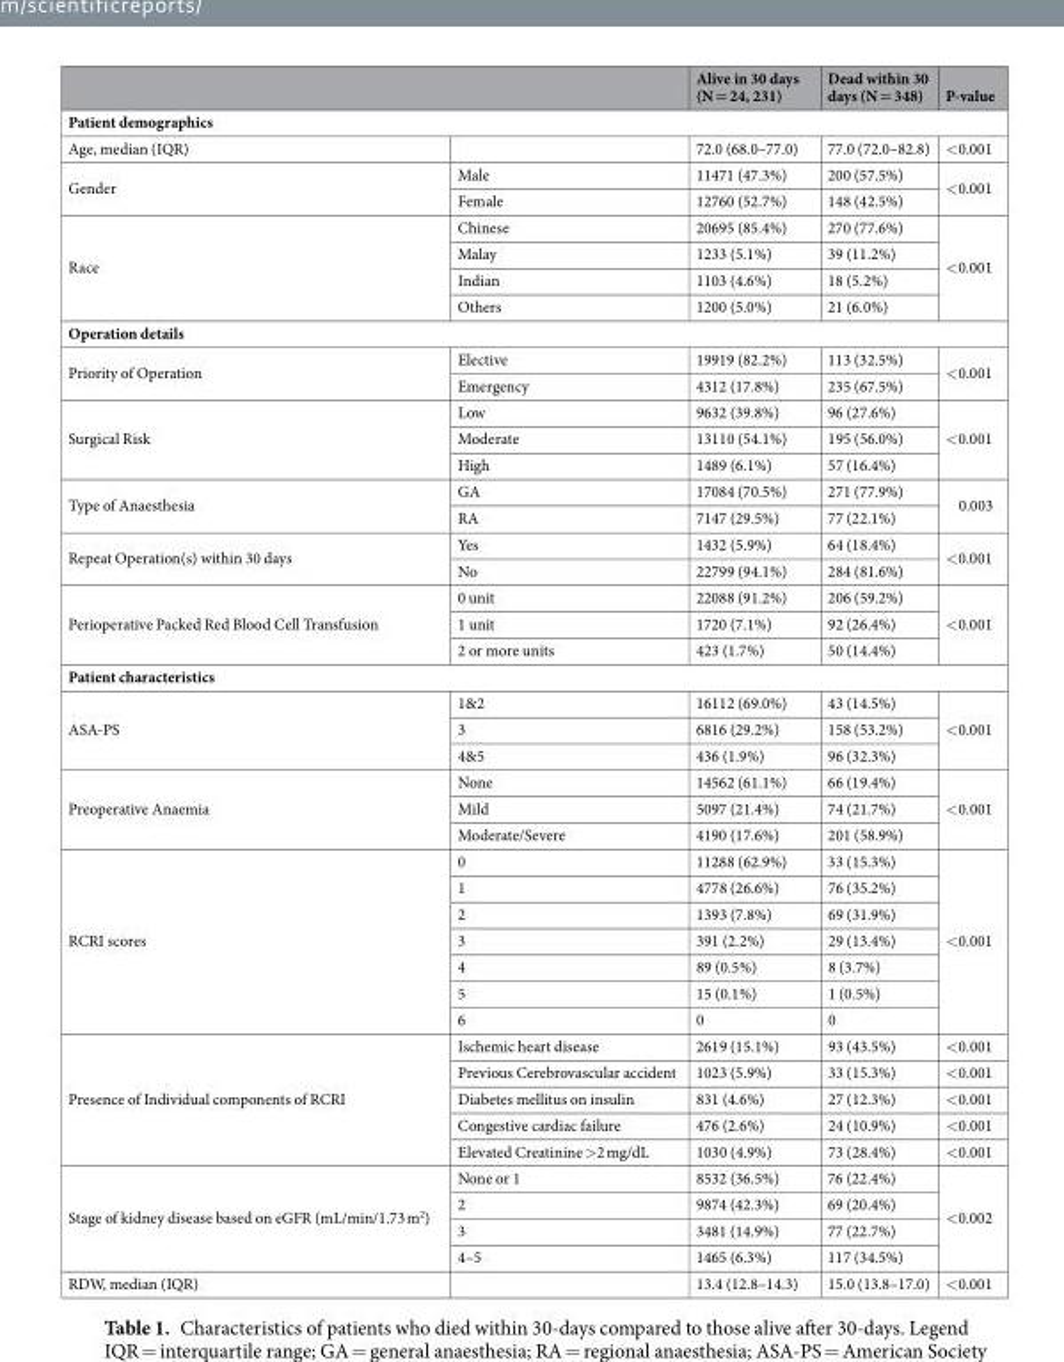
<table><thead><tr><td></td><td></td><td>Alive in 30 days (N = 24, 231)</td><td>Dead within 30 days (N = 348)</td><td>P-value</td></tr></thead><tbody><tr><td colspan="5">Patient demographics</td></tr><tr><td>Age, median (IQR)</td><td></td><td>72.0 (68.0–77.0)</td><td>77.0 (72.0–82.8)</td><td>&lt;0.001</td></tr><tr><td rowspan="2">Gender</td><td>Male</td><td>11471 (47.3%)</td><td>200 (57.5%)</td><td rowspan="2">&lt;0.001</td></tr><tr><td>Female</td><td>12760 (52.7%)</td><td>148 (42.5%)</td></tr><tr><td rowspan="4">Race</td><td>Chinese</td><td>20695 (85.4%)</td><td>270 (77.6%)</td><td rowspan="4">&lt;0.001</td></tr><tr><td>Malay</td><td>1233 (5.1%)</td><td>39 (11.2%)</td></tr><tr><td>Indian</td><td>1103 (4.6%)</td><td>18 (5.2%)</td></tr><tr><td>Others</td><td>1200 (5.0%)</td><td>21 (6.0%)</td></tr><tr><td colspan="5">Operation details</td></tr><tr><td rowspan="2">Priority of Operation</td><td>Elective</td><td>19919 (82.2%)</td><td>113 (32.5%)</td><td rowspan="2">&lt;0.001</td></tr><tr><td>Emergency</td><td>4312 (17.8%)</td><td>235 (67.5%)</td></tr><tr><td rowspan="3">Surgical Risk</td><td>Low</td><td>9632 (39.8%)</td><td>96 (27.6%)</td><td rowspan="3">&lt;0.001</td></tr><tr><td>Moderate</td><td>13110 (54.1%)</td><td>195 (56.0%)</td></tr><tr><td>High</td><td>1489 (6.1%)</td><td>57 (16.4%)</td></tr><tr><td rowspan="2">Type of Anaesthesia</td><td>GA</td><td>17084 (70.5%)</td><td>271 (77.9%)</td><td rowspan="2">0.003</td></tr><tr><td>RA</td><td>7147 (29.5%)</td><td>77 (22.1%)</td></tr><tr><td rowspan="2">Repeat Operation(s) within 30 days</td><td>Yes</td><td>1432 (5.9%)</td><td>64 (18.4%)</td><td rowspan="2">&lt;0.001</td></tr><tr><td>No</td><td>22799 (94.1%)</td><td>284 (81.6%)</td></tr><tr><td rowspan="3">Perioperative Packed Red Blood Cell Transfusion</td><td>0 unit</td><td>22088 (91.2%)</td><td>206 (59.2%)</td><td rowspan="3">&lt;0.001</td></tr><tr><td>1 unit</td><td>1720 (7.1%)</td><td>92 (26.4%)</td></tr><tr><td>2 or more units</td><td>423 (1.7%)</td><td>50 (14.4%)</td></tr><tr><td colspan="5">Patient characteristics</td></tr><tr><td rowspan="3">ASA-PS</td><td>1&amp;2</td><td>16112 (69.0%)</td><td>43 (14.5%)</td><td rowspan="3">&lt;0.001</td></tr><tr><td>3</td><td>6816 (29.2%)</td><td>158 (53.2%)</td></tr><tr><td>4&amp;5</td><td>436 (1.9%)</td><td>96 (32.3%)</td></tr><tr><td rowspan="3">Preoperative Anaemia</td><td>None</td><td>14562 (61.1%)</td><td>66 (19.4%)</td><td rowspan="3">&lt;0.001</td></tr><tr><td>Mild</td><td>5097 (21.4%)</td><td>74 (21.7%)</td></tr><tr><td>Moderate/Severe</td><td>4190 (17.6%)</td><td>201 (58.9%)</td></tr><tr><td rowspan="7">RCRI scores</td><td>0</td><td>11288 (62.9%)</td><td>33 (15.3%)</td><td rowspan="7">&lt;0.001</td></tr><tr><td>1</td><td>4778 (26.6%)</td><td>76 (35.2%)</td></tr><tr><td>2</td><td>1393 (7.8%)</td><td>69 (31.9%)</td></tr><tr><td>3</td><td>391 (2.2%)</td><td>29 (13.4%)</td></tr><tr><td>4</td><td>89 (0.5%)</td><td>8 (3.7%)</td></tr><tr><td>5</td><td>15 (0.1%)</td><td>1 (0.5%)</td></tr><tr><td>6</td><td>0</td><td>0</td></tr><tr><td rowspan="5">Presence of Individual components of RCRI</td><td>Ischemic heart disease</td><td>2619 (15.1%)</td><td>93 (43.5%)</td><td>&lt;0.001</td></tr><tr><td>Previous Cerebrovascular accident</td><td>1023 (5.9%)</td><td>33 (15.3%)</td><td>&lt;0.001</td></tr><tr><td>Diabetes mellitus on insulin</td><td>831 (4.6%)</td><td>27 (12.3%)</td><td>&lt;0.001</td></tr><tr><td>Congestive cardiac failure</td><td>476 (2.6%)</td><td>24 (10.9%)</td><td>&lt;0.001</td></tr><tr><td>Elevated Creatinine &gt;2 mg/dL</td><td>1030 (4.9%)</td><td>73 (28.4%)</td><td>&lt;0.001</td></tr><tr><td rowspan="4">Stage of kidney disease based on eGFR (mL/min/1.73 m<sup>2</sup>)</td><td>None or 1</td><td>8532 (36.5%)</td><td>76 (22.4%)</td><td rowspan="4">&lt;0.002</td></tr><tr><td>2</td><td>9874 (42.3%)</td><td>69 (20.4%)</td></tr><tr><td>3</td><td>3481 (14.9%)</td><td>77 (22.7%)</td></tr><tr><td>4–5</td><td>1465 (6.3%)</td><td>117 (34.5%)</td></tr><tr><td>RDW, median (IQR)</td><td></td><td>13.4 (12.8–14.3)</td><td>15.0 (13.8–17.0)</td><td>&lt;0.001</td></tr></tbody></table>